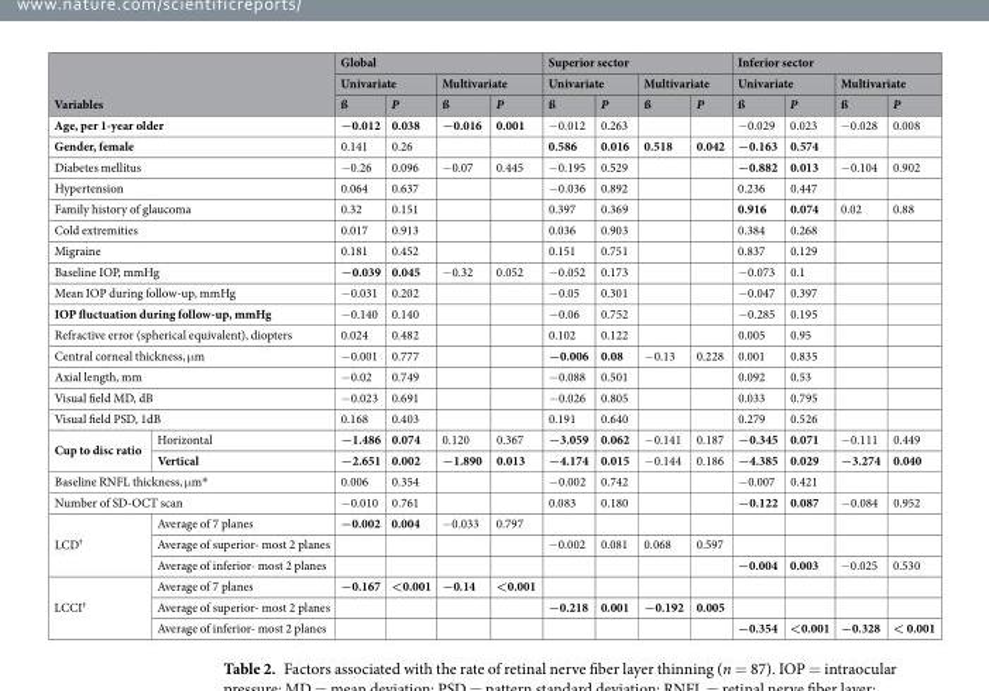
<table><thead><tr><td rowspan="3" colspan="2">Variables</td><td colspan="4">Global</td><td colspan="4">Superior sector</td><td colspan="4">Inferior sector</td></tr><tr><td colspan="2">Univariate</td><td colspan="2">Multivariate</td><td colspan="2">Univariate</td><td colspan="2">Multivariate</td><td colspan="2">Univariate</td><td colspan="2">Multivariate</td></tr><tr><td>ß</td><td>P</td><td>ß</td><td>P</td><td>ß</td><td>P</td><td>ß</td><td>P</td><td>ß</td><td>P</td><td>ß</td><td>P</td></tr></thead><tbody><tr><td colspan="2">Age, per 1-year older</td><td>−0.012</td><td>0.038</td><td>−0.016</td><td>0.001</td><td>−0.012</td><td>0.263</td><td></td><td></td><td>−0.029</td><td>0.023</td><td>−0.028</td><td>0.008</td></tr><tr><td colspan="2">Gender, female</td><td>0.141</td><td>0.26</td><td></td><td></td><td>0.586</td><td>0.016</td><td>0.518</td><td>0.042</td><td>−0.163</td><td>0.574</td><td></td><td></td></tr><tr><td colspan="2">Diabetes mellitus</td><td>−0.26</td><td>0.096</td><td>−0.07</td><td>0.445</td><td>−0.195</td><td>0.529</td><td></td><td></td><td>−0.882</td><td>0.013</td><td>−0.104</td><td>0.902</td></tr><tr><td colspan="2">Hypertension</td><td>0.064</td><td>0.637</td><td></td><td></td><td>−0.036</td><td>0.892</td><td></td><td></td><td>0.236</td><td>0.447</td><td></td><td></td></tr><tr><td colspan="2">Family history of glaucoma</td><td>0.32</td><td>0.151</td><td></td><td></td><td>0.397</td><td>0.369</td><td></td><td></td><td>0.916</td><td>0.074</td><td>0.02</td><td>0.88</td></tr><tr><td colspan="2">Cold extremities</td><td>0.017</td><td>0.913</td><td></td><td></td><td>0.036</td><td>0.903</td><td></td><td></td><td>0.384</td><td>0.268</td><td></td><td></td></tr><tr><td colspan="2">Migraine</td><td>0.181</td><td>0.452</td><td></td><td></td><td>0.151</td><td>0.751</td><td></td><td></td><td>0.837</td><td>0.129</td><td></td><td></td></tr><tr><td colspan="2">Baseline IOP, mmHg</td><td>−0.039</td><td>0.045</td><td>−0.32</td><td>0.052</td><td>−0.052</td><td>0.173</td><td></td><td></td><td>−0.073</td><td>0.1</td><td></td><td></td></tr><tr><td colspan="2">Mean IOP during follow-up, mmHg</td><td>−0.031</td><td>0.202</td><td></td><td></td><td>−0.05</td><td>0.301</td><td></td><td></td><td>−0.047</td><td>0.397</td><td></td><td></td></tr><tr><td colspan="2">IOP fluctuation during follow-up, mmHg</td><td>−0.140</td><td>0.140</td><td></td><td></td><td>−0.06</td><td>0.752</td><td></td><td></td><td>−0.285</td><td>0.195</td><td></td><td></td></tr><tr><td colspan="2">Refractive error (spherical equivalent), diopters</td><td>0.024</td><td>0.482</td><td></td><td></td><td>0.102</td><td>0.122</td><td></td><td></td><td>0.005</td><td>0.95</td><td></td><td></td></tr><tr><td colspan="2">Central corneal thickness, μm</td><td>−0.001</td><td>0.777</td><td></td><td></td><td>−0.006</td><td>0.08</td><td>−0.13</td><td>0.228</td><td>0.001</td><td>0.835</td><td></td><td></td></tr><tr><td colspan="2">Axial length, mm</td><td>−0.02</td><td>0.749</td><td></td><td></td><td>−0.088</td><td>0.501</td><td></td><td></td><td>0.092</td><td>0.53</td><td></td><td></td></tr><tr><td colspan="2">Visual field MD, dB</td><td>−0.023</td><td>0.691</td><td></td><td></td><td>−0.026</td><td>0.805</td><td></td><td></td><td>0.033</td><td>0.795</td><td></td><td></td></tr><tr><td colspan="2">Visual field PSD, 1dB</td><td>0.168</td><td>0.403</td><td></td><td></td><td>0.191</td><td>0.640</td><td></td><td></td><td>0.279</td><td>0.526</td><td></td><td></td></tr><tr><td rowspan="2">Cup to disc ratio</td><td>Horizontal</td><td>−1.486</td><td>0.074</td><td>0.120</td><td>0.367</td><td>−3.059</td><td>0.062</td><td>−0.141</td><td>0.187</td><td>−0.345</td><td>0.071</td><td>−0.111</td><td>0.449</td></tr><tr><td>Vertical</td><td>−2.651</td><td>0.002</td><td>−1.890</td><td>0.013</td><td>−4.174</td><td>0.015</td><td>−0.144</td><td>0.186</td><td>−4.385</td><td>0.029</td><td>−3.274</td><td>0.040</td></tr><tr><td colspan="2">Baseline RNFL thickness, μm*</td><td>0.006</td><td>0.354</td><td></td><td></td><td>−0.002</td><td>0.742</td><td></td><td></td><td>−0.007</td><td>0.421</td><td></td><td></td></tr><tr><td colspan="2">Number of SD-OCT scan</td><td>−0.010</td><td>0.761</td><td></td><td></td><td>0.083</td><td>0.180</td><td></td><td></td><td>−0.122</td><td>0.087</td><td>−0.084</td><td>0.952</td></tr><tr><td rowspan="3">LCD<sup>†</sup></td><td>Average of 7 planes</td><td>−0.002</td><td>0.004</td><td>−0.033</td><td>0.797</td><td></td><td></td><td></td><td></td><td></td><td></td><td></td><td></td></tr><tr><td>Average of superior- most 2 planes</td><td></td><td></td><td></td><td></td><td>−0.002</td><td>0.081</td><td>0.068</td><td>0.597</td><td></td><td></td><td></td><td></td></tr><tr><td>Average of inferior- most 2 planes</td><td></td><td></td><td></td><td></td><td></td><td></td><td></td><td></td><td>−0.004</td><td>0.003</td><td>−0.025</td><td>0.530</td></tr><tr><td rowspan="3">LCCI<sup>†</sup></td><td>Average of 7 planes</td><td>−0.167</td><td>&lt;0.001</td><td>−0.14</td><td>&lt;0.001</td><td></td><td></td><td></td><td></td><td></td><td></td><td></td><td></td></tr><tr><td>Average of superior- most 2 planes</td><td></td><td></td><td></td><td></td><td>−0.218</td><td>0.001</td><td>−0.192</td><td>0.005</td><td></td><td></td><td></td><td></td></tr><tr><td>Average of inferior- most 2 planes</td><td></td><td></td><td></td><td></td><td></td><td></td><td></td><td></td><td>−0.354</td><td>&lt;0.001</td><td>−0.328</td><td>&lt; 0.001</td></tr></tbody></table>